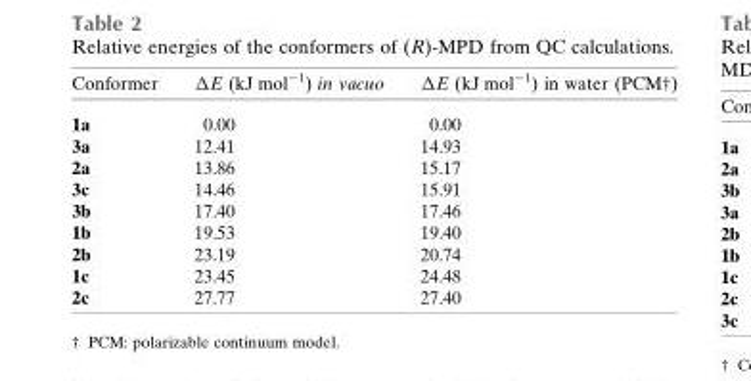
<table><thead><tr><td>Conformer</td><td>�E (kJ mol�1) in vacuo</td><td>�E (kJ mol�1) in water (PCM†)</td></tr></thead><tbody><tr><td>1a</td><td>0.00</td><td>0.00</td></tr><tr><td>3a</td><td>12.41</td><td>14.93</td></tr><tr><td>2a</td><td>13.86</td><td>15.17</td></tr><tr><td>3c</td><td>14.46</td><td>15.91</td></tr><tr><td>3b</td><td>17.40</td><td>17.46</td></tr><tr><td>1b</td><td>19.53</td><td>19.40</td></tr><tr><td>2b</td><td>23.19</td><td>20.74</td></tr><tr><td>1c</td><td>23.45</td><td>24.48</td></tr><tr><td>2c</td><td>27.77</td><td>27.40</td></tr></tbody></table>